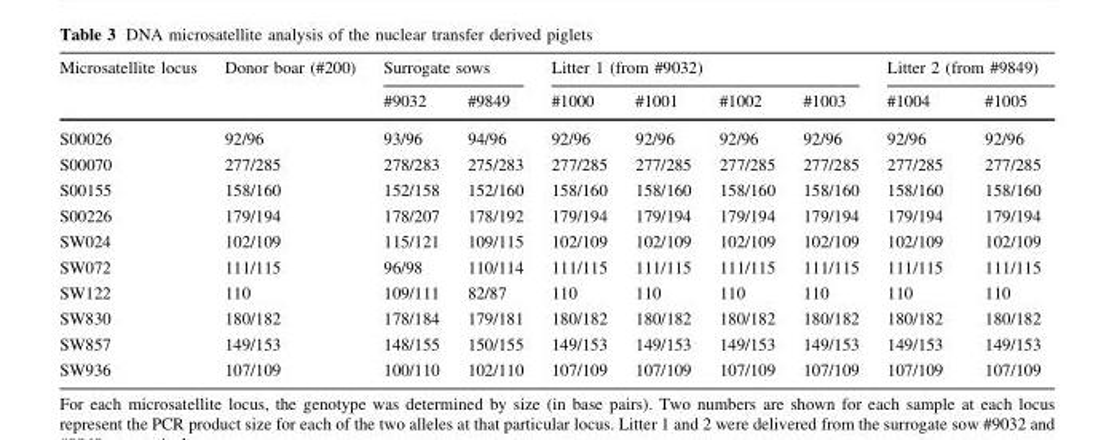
<table><thead><tr><td rowspan="2">Microsatellite locus</td><td rowspan="2">Donor boar (#200)</td><td colspan="2">Surrogate sows</td><td colspan="4">Litter 1 (from #9032)</td><td colspan="2">Litter 2 (from #9849)</td></tr><tr><td>#9032</td><td>#9849</td><td>#1000</td><td>#1001</td><td>#1002</td><td>#1003</td><td>#1004</td><td>#1005</td></tr></thead><tbody><tr><td>S00026</td><td>92/96</td><td>93/96</td><td>94/96</td><td>92/96</td><td>92/96</td><td>92/96</td><td>92/96</td><td>92/96</td><td>92/96</td></tr><tr><td>S00070</td><td>277/285</td><td>278/283</td><td>275/283</td><td>277/285</td><td>277/285</td><td>277/285</td><td>277/285</td><td>277/285</td><td>277/285</td></tr><tr><td>S00155</td><td>158/160</td><td>152/158</td><td>152/160</td><td>158/160</td><td>158/160</td><td>158/160</td><td>158/160</td><td>158/160</td><td>158/160</td></tr><tr><td>S00226</td><td>179/194</td><td>178/207</td><td>178/192</td><td>179/194</td><td>179/194</td><td>179/194</td><td>179/194</td><td>179/194</td><td>179/194</td></tr><tr><td>SW024</td><td>102/109</td><td>115/121</td><td>109/115</td><td>102/109</td><td>102/109</td><td>102/109</td><td>102/109</td><td>102/109</td><td>102/109</td></tr><tr><td>SW072</td><td>111/115</td><td>96/98</td><td>110/114</td><td>111/115</td><td>111/115</td><td>111/115</td><td>111/115</td><td>111/115</td><td>111/115</td></tr><tr><td>SW122</td><td>110</td><td>109/111</td><td>82/87</td><td>110</td><td>110</td><td>110</td><td>110</td><td>110</td><td>110</td></tr><tr><td>SW830</td><td>180/182</td><td>178/184</td><td>179/181</td><td>180/182</td><td>180/182</td><td>180/182</td><td>180/182</td><td>180/182</td><td>180/182</td></tr><tr><td>SW857</td><td>149/153</td><td>148/155</td><td>150/155</td><td>149/153</td><td>149/153</td><td>149/153</td><td>149/153</td><td>149/153</td><td>149/153</td></tr><tr><td>SW936</td><td>107/109</td><td>100/110</td><td>102/110</td><td>107/109</td><td>107/109</td><td>107/109</td><td>107/109</td><td>107/109</td><td>107/109</td></tr></tbody></table>